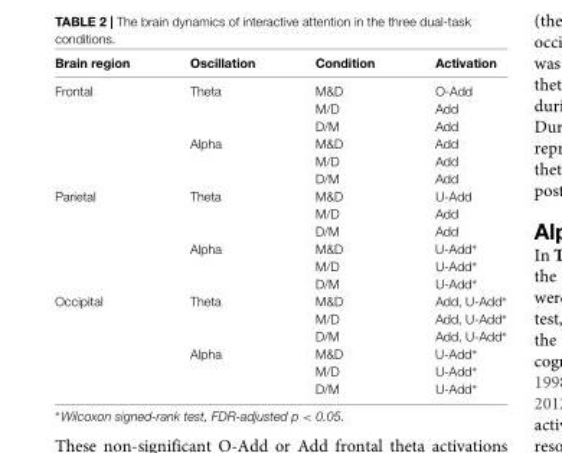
<table><thead><tr><td>Brain region</td><td>Oscillation</td><td>Condition</td><td>Activation</td></tr></thead><tbody><tr><td rowspan="6">Frontal</td><td>Theta</td><td>M&amp;D</td><td>O-Add</td></tr><tr><td></td><td>M/D</td><td>Add</td></tr><tr><td></td><td>D/M</td><td>Add</td></tr><tr><td>Alpha</td><td>M&amp;D</td><td>Add</td></tr><tr><td></td><td>M/D</td><td>Add</td></tr><tr><td></td><td>D/M</td><td>Add</td></tr><tr><td rowspan="6">Parietal</td><td>Theta</td><td>M&amp;D</td><td>U-Add</td></tr><tr><td></td><td>M/D</td><td>Add</td></tr><tr><td></td><td>D/M</td><td>Add</td></tr><tr><td>Alpha</td><td>M&amp;D</td><td>U-Add∗</td></tr><tr><td></td><td>M/D</td><td>U-Add∗</td></tr><tr><td></td><td>D/M</td><td>U-Add∗</td></tr><tr><td rowspan="6">Occipital</td><td>Theta</td><td>M&amp;D</td><td>Add, U-Add∗</td></tr><tr><td></td><td>M/D</td><td>Add, U-Add∗</td></tr><tr><td></td><td>D/M</td><td>Add, U-Add∗</td></tr><tr><td>Alpha</td><td>M&amp;D</td><td>U-Add∗</td></tr><tr><td></td><td>M/D</td><td>U-Add∗</td></tr><tr><td></td><td>D/M</td><td>U-Add∗</td></tr></tbody></table>